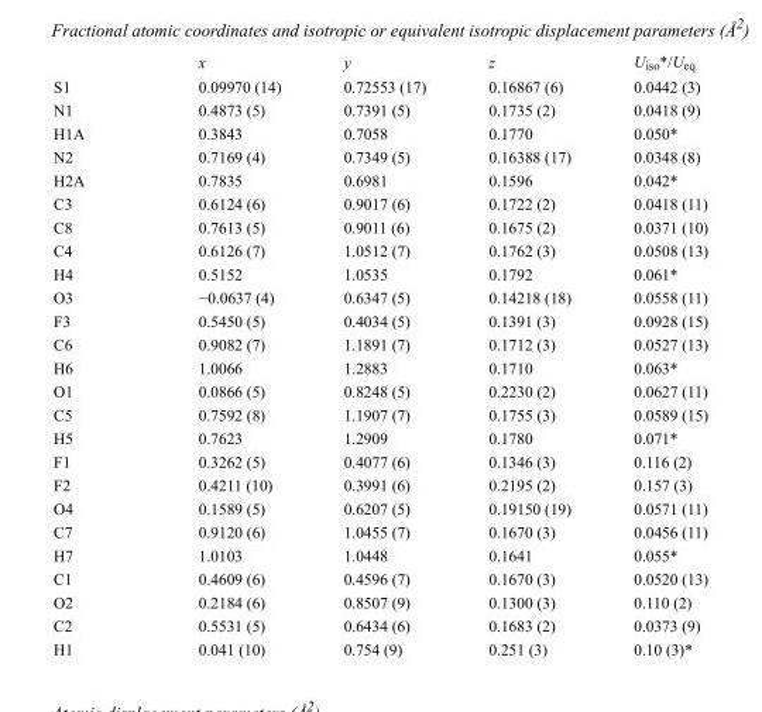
<table><thead><tr><td></td><td>x</td><td>y</td><td>z</td><td>U<sub>iso</sub>*/U<sub>eq</sub></td></tr></thead><tbody><tr><td>S1</td><td>0.09970 (14)</td><td>0.72553 (17)</td><td>0.16867 (6)</td><td>0.0442 (3)</td></tr><tr><td>N1</td><td>0.4873 (5)</td><td>0.7391 (5)</td><td>0.1735 (2)</td><td>0.0418 (9)</td></tr><tr><td>H1A</td><td>0.3843</td><td>0.7058</td><td>0.1770</td><td>0.050*</td></tr><tr><td>N2</td><td>0.7169 (4)</td><td>0.7349 (5)</td><td>0.16388 (17)</td><td>0.0348 (8)</td></tr><tr><td>H2A</td><td>0.7835</td><td>0.6981</td><td>0.1596</td><td>0.042*</td></tr><tr><td>C3</td><td>0.6124 (6)</td><td>0.9017 (6)</td><td>0.1722 (2)</td><td>0.0418 (11)</td></tr><tr><td>C8</td><td>0.7613 (5)</td><td>0.9011 (6)</td><td>0.1675 (2)</td><td>0.0371 (10)</td></tr><tr><td>C4</td><td>0.6126 (7)</td><td>1.0512 (7)</td><td>0.1762 (3)</td><td>0.0508 (13)</td></tr><tr><td>H4</td><td>0.5152</td><td>1.0535</td><td>0.1792</td><td>0.061*</td></tr><tr><td>O3</td><td>−0.0637 (4)</td><td>0.6347 (5)</td><td>0.14218 (18)</td><td>0.0558 (11)</td></tr><tr><td>F3</td><td>0.5450 (5)</td><td>0.4034 (5)</td><td>0.1391 (3)</td><td>0.0928 (15)</td></tr><tr><td>C6</td><td>0.9082 (7)</td><td>1.1891 (7)</td><td>0.1712 (3)</td><td>0.0527 (13)</td></tr><tr><td>H6</td><td>1.0066</td><td>1.2883</td><td>0.1710</td><td>0.063*</td></tr><tr><td>O1</td><td>0.0866 (5)</td><td>0.8248 (5)</td><td>0.2230 (2)</td><td>0.0627 (11)</td></tr><tr><td>C5</td><td>0.7592 (8)</td><td>1.1907 (7)</td><td>0.1755 (3)</td><td>0.0589 (15)</td></tr><tr><td>H5</td><td>0.7623</td><td>1.2909</td><td>0.1780</td><td>0.071*</td></tr><tr><td>F1</td><td>0.3262 (5)</td><td>0.4077 (6)</td><td>0.1346 (3)</td><td>0.116 (2)</td></tr><tr><td>F2</td><td>0.4211 (10)</td><td>0.3991 (6)</td><td>0.2195 (2)</td><td>0.157 (3)</td></tr><tr><td>O4</td><td>0.1589 (5)</td><td>0.6207 (5)</td><td>0.19150 (19)</td><td>0.0571 (11)</td></tr><tr><td>C7</td><td>0.9120 (6)</td><td>1.0455 (7)</td><td>0.1670 (3)</td><td>0.0456 (11)</td></tr><tr><td>H7</td><td>1.0103</td><td>1.0448</td><td>0.1641</td><td>0.055*</td></tr><tr><td>C1</td><td>0.4609 (6)</td><td>0.4596 (7)</td><td>0.1670 (3)</td><td>0.0520 (13)</td></tr><tr><td>O2</td><td>0.2184 (6)</td><td>0.8507 (9)</td><td>0.1300 (3)</td><td>0.110 (2)</td></tr><tr><td>C2</td><td>0.5531 (5)</td><td>0.6434 (6)</td><td>0.1683 (2)</td><td>0.0373 (9)</td></tr><tr><td>H1</td><td>0.041 (10)</td><td>0.754 (9)</td><td>0.251 (3)</td><td>0.10 (3)*</td></tr></tbody></table>